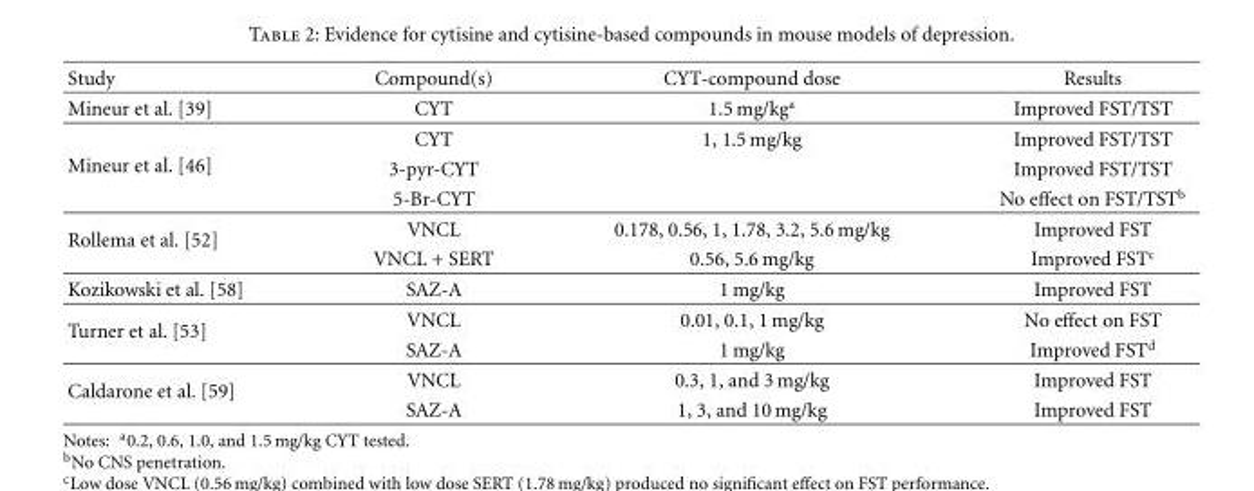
<table><thead><tr><td>Study</td><td>Compound(s)</td><td>CYT-compound dose</td><td>Results</td></tr></thead><tbody><tr><td>Mineur et al. [39]</td><td>CYT</td><td>1.5 mg/kg<sup>a</sup></td><td>Improved FST/TST</td></tr><tr><td rowspan="3">Mineur et al. [46]</td><td>CYT</td><td>1, 1.5 mg/kg</td><td>Improved FST/TST</td></tr><tr><td>3-pyr-CYT</td><td></td><td>Improved FST/TST</td></tr><tr><td>5-Br-CYT</td><td></td><td>No effect on FST/TST<sup>b</sup></td></tr><tr><td rowspan="2">Rollema et al. [52]</td><td>VNCL</td><td>0.178, 0.56, 1, 1.78, 3.2, 5.6 mg/kg</td><td>Improved FST</td></tr><tr><td>VNCL + SERT</td><td>0.56, 5.6 mg/kg</td><td>Improved FST<sup>c</sup></td></tr><tr><td>Kozikowski et al. [58]</td><td>SAZ-A</td><td>1 mg/kg</td><td>Improved FST</td></tr><tr><td rowspan="2">Turner et al. [53]</td><td>VNCL</td><td>0.01, 0.1, 1 mg/kg</td><td>No effect on FST</td></tr><tr><td>SAZ-A</td><td>1 mg/kg</td><td>Improved FST<sup>d</sup></td></tr><tr><td rowspan="2">Caldarone et al. [59]</td><td>VNCL</td><td>0.3, 1, and 3 mg/kg</td><td>Improved FST</td></tr><tr><td>SAZ-A</td><td>1, 3, and 10 mg/kg</td><td>Improved FST</td></tr></tbody></table>